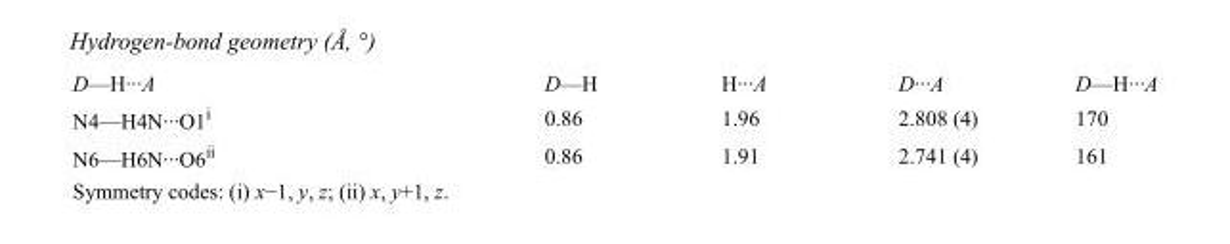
<table><tbody><tr><td>D—H···A</td><td>D—H</td><td>H···A</td><td>D···A</td><td>D—H···A</td></tr><tr><td>N4—H4N···O1<sup>i</sup></td><td>0.86</td><td>1.96</td><td>2.808 (4)</td><td>170</td></tr><tr><td>N6—H6N···O6<sup>ii</sup></td><td>0.86</td><td>1.91</td><td>2.741 (4)</td><td>161</td></tr></tbody></table>